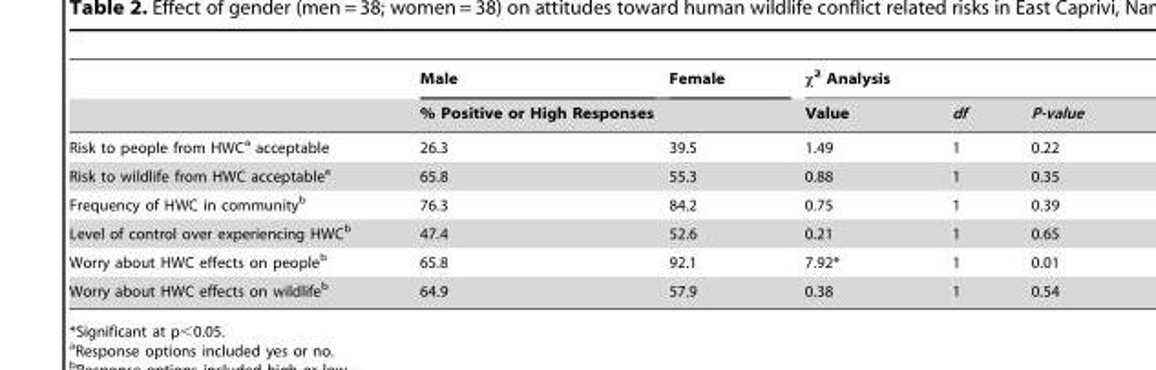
<table><thead><tr><td rowspan="2"></td><td>Male</td><td>Female</td><td colspan="3">κ<sup>2</sup> Analysis</td></tr><tr><td colspan="2">% Positive or High Responses</td><td>Value</td><td>df</td><td>P-value</td></tr></thead><tbody><tr><td>Risk to people from HWC<sup>a</sup> acceptable</td><td>26.3</td><td>39.5</td><td>1.49</td><td>1</td><td>0.22</td></tr><tr><td>Risk to wildlife from HWC acceptable<sup>a</sup></td><td>65.8</td><td>55.3</td><td>0.88</td><td>1</td><td>0.35</td></tr><tr><td>Frequency of HWC in community<sup>b</sup></td><td>76.3</td><td>84.2</td><td>0.75</td><td>1</td><td>0.39</td></tr><tr><td>Level of control over experiencing HWC<sup>b</sup></td><td>47.4</td><td>52.6</td><td>0.21</td><td>1</td><td>0.65</td></tr><tr><td>Worry about HWC effects on people<sup>b</sup></td><td>65.8</td><td>92.1</td><td>7.92*</td><td>1</td><td>0.01</td></tr><tr><td>Worry about HWC effects on wildlife<sup>b</sup></td><td>64.9</td><td>57.9</td><td>0.38</td><td>1</td><td>0.54</td></tr></tbody></table>